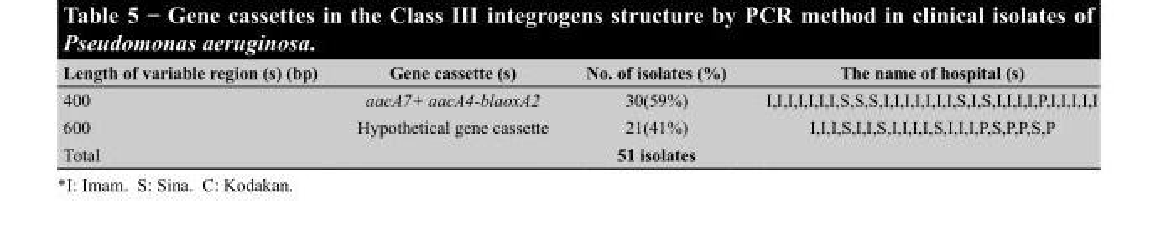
<table><thead><tr><td>Length of variable region (s) (bp)</td><td>Gene cassette (s)</td><td>No. of isolates (%)</td><td>The name of hospital (s)</td></tr></thead><tbody><tr><td>400</td><td>aacA7+ aacA4-blaoxA2</td><td>30(59%)</td><td>I,I,I,I,I,I,I,S,S,S,I,I,I,I,I,I,I,S,I,S,I,I,I,I,P,I,I,I,I,I</td></tr><tr><td>600</td><td>Hypothetical gene cassette</td><td>21(41%)</td><td>I,I,I,S,I,I,S,I,I,I,I,S,I,I,I,P,S,P,P,S,P</td></tr><tr><td>Total</td><td></td><td>51 isolates</td><td></td></tr></tbody></table>